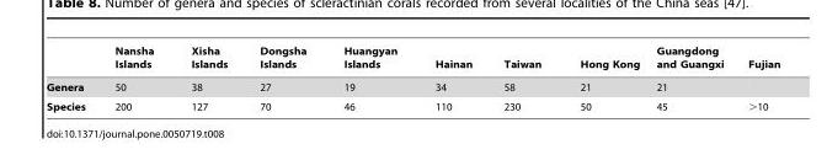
<table><thead><tr><td></td><td>Nansha Islands</td><td>Xisha Islands</td><td>Dongsha Islands</td><td>Huangyan Islands</td><td>Hainan</td><td>Taiwan</td><td>Hong Kong</td><td>Guangdong and Guangxi</td><td>Fujian</td></tr></thead><tbody><tr><td>Genera</td><td>50</td><td>38</td><td>27</td><td>19</td><td>34</td><td>58</td><td>21</td><td>21</td><td></td></tr><tr><td>Species</td><td>200</td><td>127</td><td>70</td><td>46</td><td>110</td><td>230</td><td>50</td><td>45</td><td>&gt;10</td></tr></tbody></table>